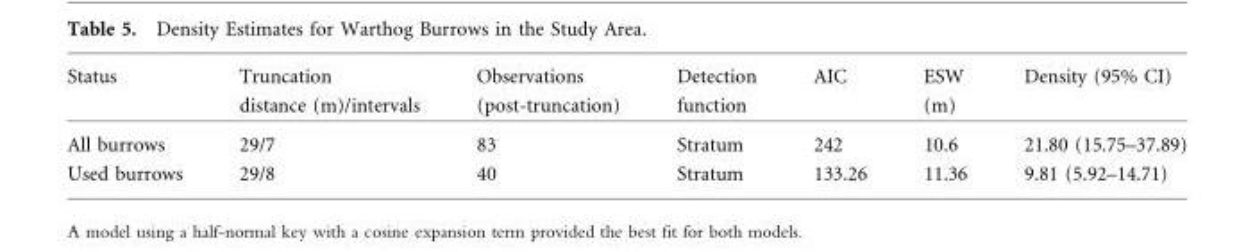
<table><thead><tr><td>Status</td><td>Truncation distance (m)/intervals</td><td>Observations (post-truncation)</td><td>Detection function</td><td>AIC</td><td>ESW (m)</td><td>Density (95% CI)</td></tr></thead><tbody><tr><td>All burrows</td><td>29/7</td><td>83</td><td>Stratum</td><td>242</td><td>10.6</td><td>21.80 (15.75–37.89)</td></tr><tr><td>Used burrows</td><td>29/8</td><td>40</td><td>Stratum</td><td>133.26</td><td>11.36</td><td>9.81 (5.92–14.71)</td></tr></tbody></table>